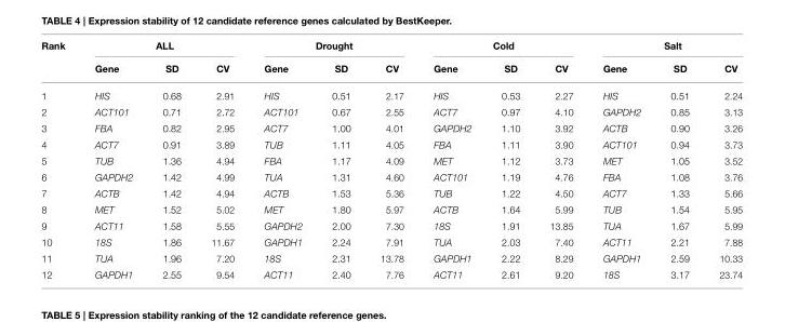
<table><thead><tr><td rowspan="2">Rank</td><td colspan="3">ALL</td><td colspan="3">Drought</td><td colspan="3">Cold</td><td colspan="3">Salt</td></tr><tr><td>Gene</td><td>SD</td><td>CV</td><td>Gene</td><td>SD</td><td>CV</td><td>Gene</td><td>SD</td><td>CV</td><td>Gene</td><td>SD</td><td>CV</td></tr></thead><tbody><tr><td>1</td><td>HIS</td><td>0.68</td><td>2.91</td><td>HIS</td><td>0.51</td><td>2.17</td><td>HIS</td><td>0.53</td><td>2.27</td><td>HIS</td><td>0.51</td><td>2.24</td></tr><tr><td>2</td><td>ACT101</td><td>0.71</td><td>2.72</td><td>ACT101</td><td>0.67</td><td>2.55</td><td>ACT7</td><td>0.97</td><td>4.10</td><td>GAPDH2</td><td>0.85</td><td>3.13</td></tr><tr><td>3</td><td>FBA</td><td>0.82</td><td>2.95</td><td>ACT7</td><td>1.00</td><td>4.01</td><td>GAPDH2</td><td>1.10</td><td>3.92</td><td>ACTB</td><td>0.90</td><td>3.26</td></tr><tr><td>4</td><td>ACT7</td><td>0.91</td><td>3.89</td><td>TUB</td><td>1.11</td><td>4.05</td><td>FBA</td><td>1.11</td><td>3.90</td><td>ACT101</td><td>0.94</td><td>3.73</td></tr><tr><td>5</td><td>TUB</td><td>1.36</td><td>4.94</td><td>FBA</td><td>1.17</td><td>4.09</td><td>MET</td><td>1.12</td><td>3.73</td><td>MET</td><td>1.05</td><td>3.52</td></tr><tr><td>6</td><td>GAPDH2</td><td>1.42</td><td>4.99</td><td>TUA</td><td>1.31</td><td>4.60</td><td>ACT101</td><td>1.19</td><td>4.76</td><td>FBA</td><td>1.08</td><td>3.76</td></tr><tr><td>7</td><td>ACTB</td><td>1.42</td><td>4.94</td><td>ACTB</td><td>1.53</td><td>5.36</td><td>TUB</td><td>1.22</td><td>4.50</td><td>ACT7</td><td>1.33</td><td>5.66</td></tr><tr><td>8</td><td>MET</td><td>1.52</td><td>5.02</td><td>MET</td><td>1.80</td><td>5.97</td><td>ACTB</td><td>1.64</td><td>5.99</td><td>TUB</td><td>1.54</td><td>5.95</td></tr><tr><td>9</td><td>ACT11</td><td>1.58</td><td>5.55</td><td>GAPDH2</td><td>2.00</td><td>7.30</td><td>18S</td><td>1.91</td><td>13.85</td><td>TUA</td><td>1.67</td><td>5.99</td></tr><tr><td>10</td><td>18S</td><td>1.86</td><td>11.67</td><td>GAPDH1</td><td>2.24</td><td>7.91</td><td>TUA</td><td>2.03</td><td>7.40</td><td>ACT11</td><td>2.21</td><td>7.88</td></tr><tr><td>11</td><td>TUA</td><td>1.96</td><td>7.20</td><td>18S</td><td>2.31</td><td>13.78</td><td>GAPDH1</td><td>2.22</td><td>8.29</td><td>GAPDH1</td><td>2.59</td><td>10.33</td></tr><tr><td>12</td><td>GAPDH1</td><td>2.55</td><td>9.54</td><td>ACT11</td><td>2.40</td><td>7.76</td><td>ACT11</td><td>2.61</td><td>9.20</td><td>18S</td><td>3.17</td><td>23.74</td></tr></tbody></table>